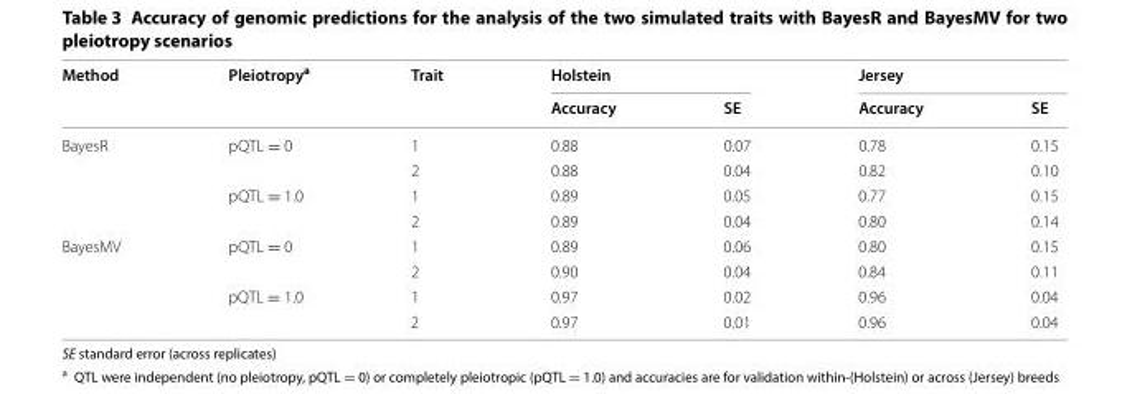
<table><thead><tr><td rowspan="2">Method</td><td rowspan="2">Pleiotropy<sup>a</sup></td><td rowspan="2">Trait</td><td colspan="2">Holstein</td><td colspan="2">Jersey</td></tr><tr><td>Accuracy</td><td>SE</td><td>Accuracy</td><td>SE</td></tr></thead><tbody><tr><td rowspan="4">BayesR</td><td rowspan="2">pQTL = 0</td><td>1</td><td>0.88</td><td>0.07</td><td>0.78</td><td>0.15</td></tr><tr><td>2</td><td>0.88</td><td>0.04</td><td>0.82</td><td>0.10</td></tr><tr><td rowspan="2">pQTL = 1.0</td><td>1</td><td>0.89</td><td>0.05</td><td>0.77</td><td>0.15</td></tr><tr><td>2</td><td>0.89</td><td>0.04</td><td>0.80</td><td>0.14</td></tr><tr><td rowspan="4">BayesMV</td><td rowspan="2">pQTL = 0</td><td>1</td><td>0.89</td><td>0.06</td><td>0.80</td><td>0.15</td></tr><tr><td>2</td><td>0.90</td><td>0.04</td><td>0.84</td><td>0.11</td></tr><tr><td rowspan="2">pQTL = 1.0</td><td>1</td><td>0.97</td><td>0.02</td><td>0.96</td><td>0.04</td></tr><tr><td>2</td><td>0.97</td><td>0.01</td><td>0.96</td><td>0.04</td></tr></tbody></table>